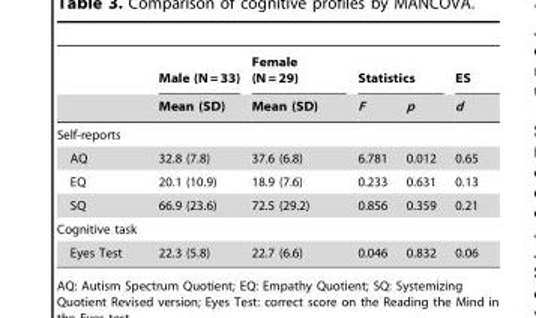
<table><thead><tr><td rowspan="2"></td><td rowspan="2">Male (N = 33) Mean (SD)</td><td rowspan="2">Female (N = 29) Mean (SD)</td><td colspan="2">Statistics</td><td rowspan="2">ES d</td></tr><tr><td>F</td><td>p</td></tr></thead><tbody><tr><td colspan="6">Self-reports</td></tr><tr><td>AQ</td><td>32.8 (7.8)</td><td>37.6 (6.8)</td><td>6.781</td><td>0.012</td><td>0.65</td></tr><tr><td>EQ</td><td>20.1 (10.9)</td><td>18.9 (7.6)</td><td>0.233</td><td>0.631</td><td>0.13</td></tr><tr><td>SQ</td><td>66.9 (23.6)</td><td>72.5 (29.2)</td><td>0.856</td><td>0.359</td><td>0.21</td></tr><tr><td colspan="6">Cognitive task</td></tr><tr><td>Eyes Test</td><td>22.3 (5.8)</td><td>22.7 (6.6)</td><td>0.046</td><td>0.832</td><td>0.06</td></tr></tbody></table>